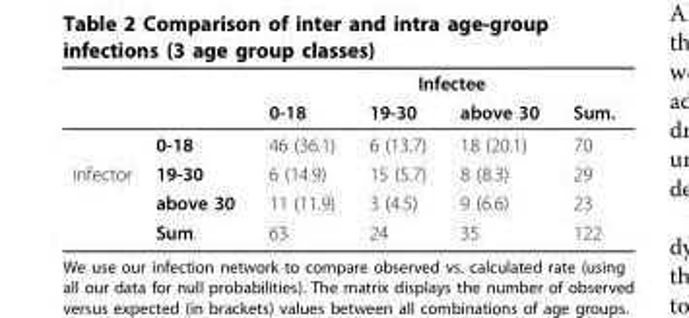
<table><thead><tr><td rowspan="2"></td><td rowspan="2"></td><td colspan="4">Infectee</td></tr><tr><td>0-18</td><td>19-30</td><td>above 30</td><td>Sum.</td></tr></thead><tbody><tr><td></td><td>0-18</td><td>46 (36.1)</td><td>6 (13.7)</td><td>18 (20.1)</td><td>70</td></tr><tr><td rowspan="3">infector</td><td>19-30</td><td>6 (14.9)</td><td>15 (5.7)</td><td>8 (8.3)</td><td>29</td></tr><tr><td>above 30</td><td>11 (11.9)</td><td>3 (4.5)</td><td>9 (6.6)</td><td>23</td></tr><tr><td>Sum.</td><td>63</td><td>24</td><td>35</td><td>122</td></tr></tbody></table>